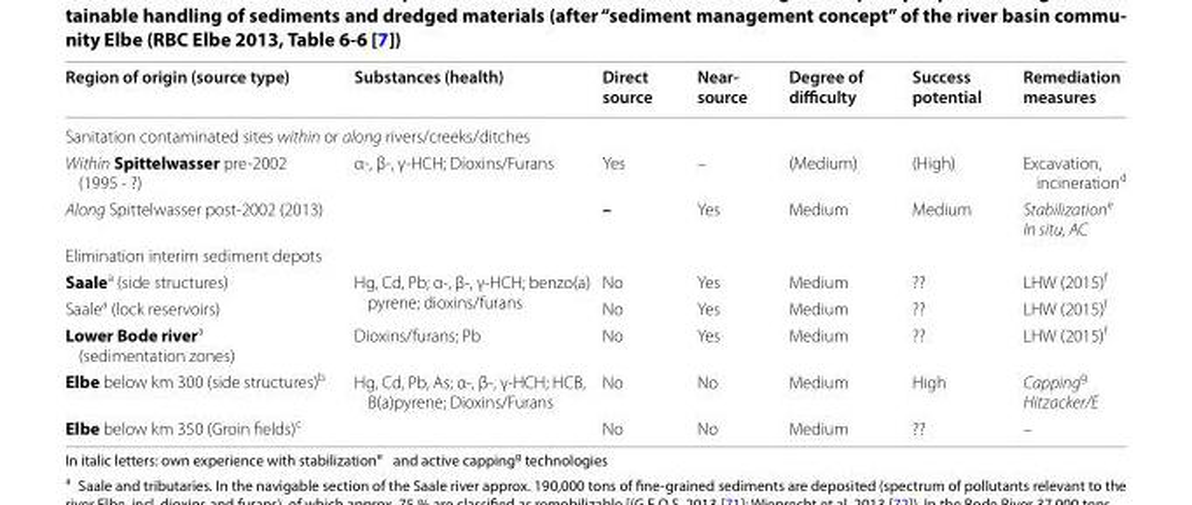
<table><thead><tr><td>Region of origin (source type)</td><td>Substances (health)</td><td>Direct source</td><td>Near‑ source</td><td>Degree of difficulty</td><td>Success potential</td><td>Remediation measures</td></tr></thead><tbody><tr><td colspan="7">Sanitation contaminated sites within or along rivers/creeks/ditches</td></tr><tr><td>Within Spittelwasser pre-2002 (1995 - ?)</td><td rowspan="2">α-, β-, γ-HCH; Dioxins/Furans</td><td>Yes</td><td>–</td><td>(Medium)</td><td>(High)</td><td>Excavation, incineration<sup>d</sup></td></tr><tr><td>Along Spittelwasser post-2002 (2013)</td><td>–</td><td>Yes</td><td>Medium</td><td>Medium</td><td>Stabilization<sup>e</sup> In situ, AC</td></tr><tr><td colspan="7">Elimination interim sediment depots</td></tr><tr><td>Saale<sup>a</sup> (side structures)</td><td rowspan="2">Hg, Cd, Pb; α-, β-, γ-HCH; benzo(a) pyrene; dioxins/furans</td><td>No</td><td>Yes</td><td>Medium</td><td>??</td><td>LHW (2015)<sup>f</sup></td></tr><tr><td>Saale<sup>a</sup> (lock reservoirs)</td><td>No</td><td>Yes</td><td>Medium</td><td>??</td><td>LHW (2015)<sup>f</sup></td></tr><tr><td>Lower Bode river<sup>a</sup> (sedimentation zones)</td><td>Dioxins/furans; Pb</td><td>No</td><td>Yes</td><td>Medium</td><td>??</td><td>LHW (2015)<sup>f</sup></td></tr><tr><td>Elbe below km 300 (side structures)<sup>b</sup></td><td rowspan="2">Hg, Cd, Pb, As; α-, β-, γ-HCH; HCB, B(a)pyrene; Dioxins/Furans</td><td>No</td><td>No</td><td>Medium</td><td>High</td><td>Capping<sup>g</sup> Hitzacker/E</td></tr><tr><td>Elbe below km 350 (Groin fields)<sup>c</sup></td><td>No</td><td>No</td><td>Medium</td><td>??</td><td>–</td></tr></tbody></table>